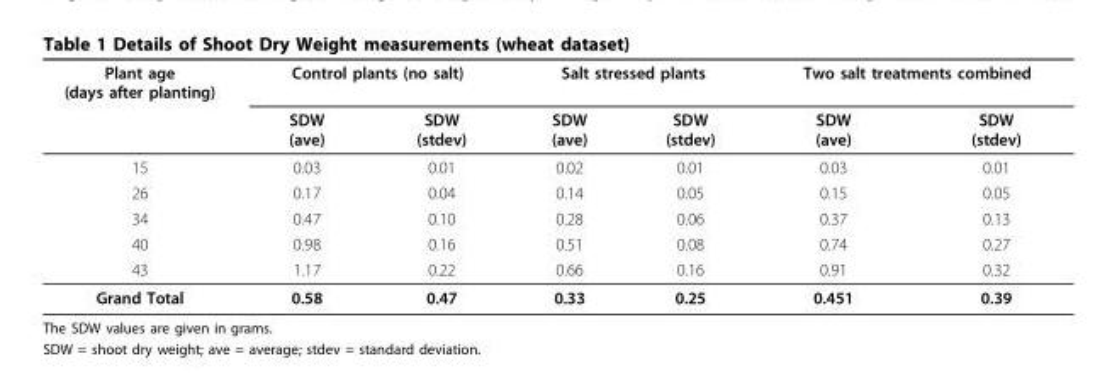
<table><thead><tr><td rowspan="2">Plant age (days after planting)</td><td colspan="2">Control plants (no salt)</td><td colspan="2">Salt stressed plants</td><td colspan="2">Two salt treatments combined</td></tr><tr><td>SDW (ave)</td><td>SDW (stdev)</td><td>SDW (ave)</td><td>SDW (stdev)</td><td>SDW (ave)</td><td>SDW (stdev)</td></tr></thead><tbody><tr><td>15</td><td>0.03</td><td>0.01</td><td>0.02</td><td>0.01</td><td>0.03</td><td>0.01</td></tr><tr><td>26</td><td>0.17</td><td>0.04</td><td>0.14</td><td>0.05</td><td>0.15</td><td>0.05</td></tr><tr><td>34</td><td>0.47</td><td>0.10</td><td>0.28</td><td>0.06</td><td>0.37</td><td>0.13</td></tr><tr><td>40</td><td>0.98</td><td>0.16</td><td>0.51</td><td>0.08</td><td>0.74</td><td>0.27</td></tr><tr><td>43</td><td>1.17</td><td>0.22</td><td>0.66</td><td>0.16</td><td>0.91</td><td>0.32</td></tr><tr><td>Grand Total</td><td>0.58</td><td>0.47</td><td>0.33</td><td>0.25</td><td>0.451</td><td>0.39</td></tr></tbody></table>